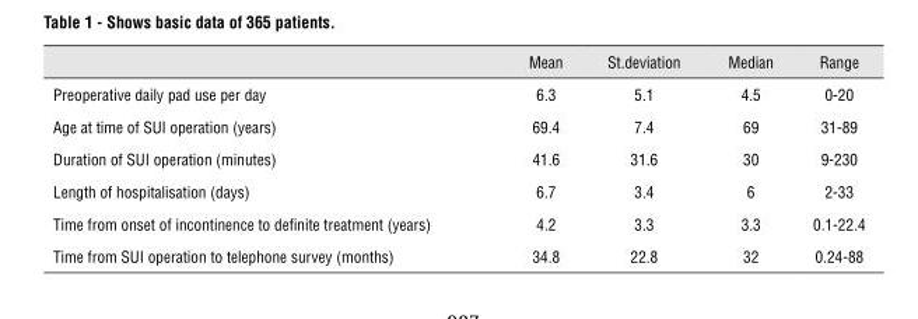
<table><thead><tr><td></td><td>Mean</td><td>St.deviation</td><td>Median</td><td>Range</td></tr></thead><tbody><tr><td>Preoperative daily pad use per day</td><td>6.3</td><td>5.1</td><td>4.5</td><td>0-20</td></tr><tr><td>Age at time of SUI operation (years)</td><td>69.4</td><td>7.4</td><td>69</td><td>31-89</td></tr><tr><td>Duration of SUI operation (minutes)</td><td>41.6</td><td>31.6</td><td>30</td><td>9-230</td></tr><tr><td>Length of hospitalisation (days)</td><td>6.7</td><td>3.4</td><td>6</td><td>2-33</td></tr><tr><td>Time from onset of incontinence to definite treatment (years)</td><td>4.2</td><td>3.3</td><td>3.3</td><td>0.1-22.4</td></tr><tr><td>Time from SUI operation to telephone survey (months)</td><td>34.8</td><td>22.8</td><td>32</td><td>0.24-88</td></tr></tbody></table>